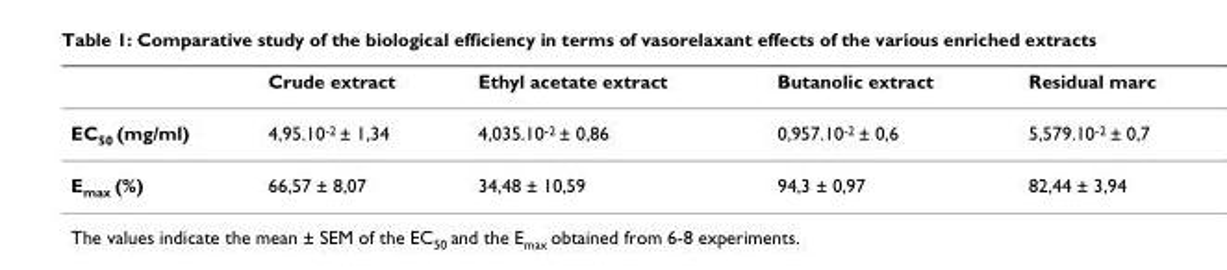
<table><thead><tr><td></td><td>Crude extract</td><td>Ethyl acetate extract</td><td>Butanolic extract</td><td>Residual marc</td></tr></thead><tbody><tr><td>EC<sub>50</sub> (mg/ml)</td><td>4,95.10<sup>-2</sup> ± 1,34</td><td>4,035.10<sup>-2</sup> ± 0,86</td><td>0,957.10<sup>-2</sup> ± 0,6</td><td>5,579.10<sup>-2</sup> ± 0,7</td></tr><tr><td>E<sub>max</sub> (%)</td><td>66,57 ± 8,07</td><td>34,48 ± 10,59</td><td>94,3 ± 0,97</td><td>82,44 ± 3,94</td></tr></tbody></table>